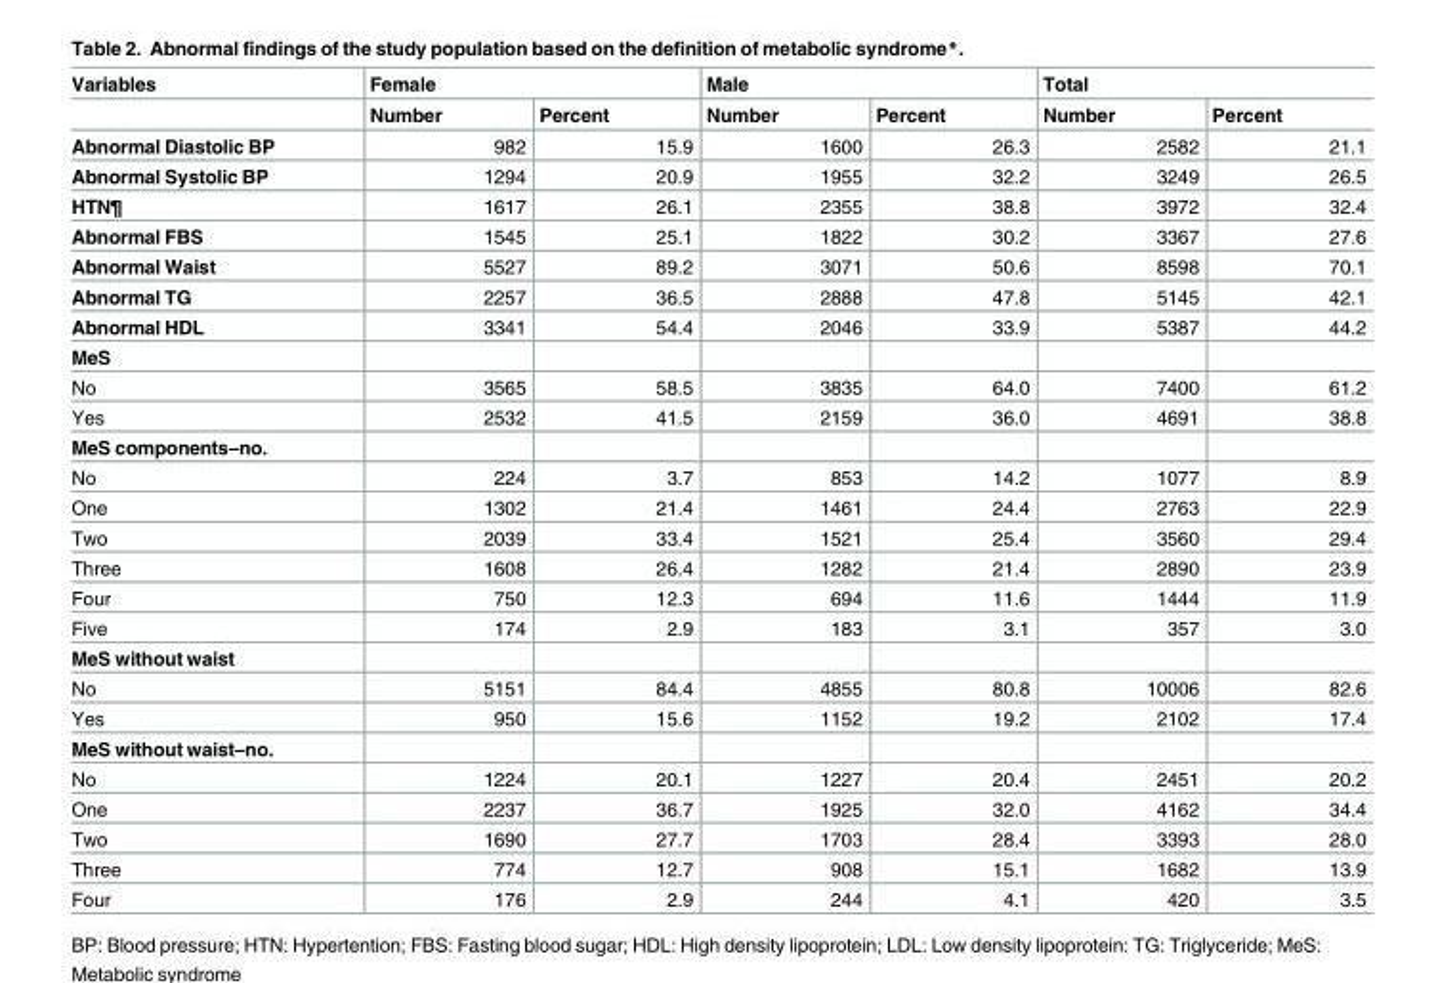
<table><thead><tr><td rowspan="2">Variables</td><td colspan="2">Female</td><td colspan="2">Male</td><td colspan="2">Total</td></tr><tr><td>Number</td><td>Percent</td><td>Number</td><td>Percent</td><td>Number</td><td>Percent</td></tr></thead><tbody><tr><td>Abnormal Diastolic BP</td><td>982</td><td>15.9</td><td>1600</td><td>26.3</td><td>2582</td><td>21.1</td></tr><tr><td>Abnormal Systolic BP</td><td>1294</td><td>20.9</td><td>1955</td><td>32.2</td><td>3249</td><td>26.5</td></tr><tr><td>HTN¶</td><td>1617</td><td>26.1</td><td>2355</td><td>38.8</td><td>3972</td><td>32.4</td></tr><tr><td>Abnormal FBS</td><td>1545</td><td>25.1</td><td>1822</td><td>30.2</td><td>3367</td><td>27.6</td></tr><tr><td>Abnormal Waist</td><td>5527</td><td>89.2</td><td>3071</td><td>50.6</td><td>8598</td><td>70.1</td></tr><tr><td>Abnormal TG</td><td>2257</td><td>36.5</td><td>2888</td><td>47.8</td><td>5145</td><td>42.1</td></tr><tr><td>Abnormal HDL</td><td>3341</td><td>54.4</td><td>2046</td><td>33.9</td><td>5387</td><td>44.2</td></tr><tr><td colspan="7">MeS</td></tr><tr><td>No</td><td>3565</td><td>58.5</td><td>3835</td><td>64.0</td><td>7400</td><td>61.2</td></tr><tr><td>Yes</td><td>2532</td><td>41.5</td><td>2159</td><td>36.0</td><td>4691</td><td>38.8</td></tr><tr><td colspan="7">MeS components–no.</td></tr><tr><td>No</td><td>224</td><td>3.7</td><td>853</td><td>14.2</td><td>1077</td><td>8.9</td></tr><tr><td>One</td><td>1302</td><td>21.4</td><td>1461</td><td>24.4</td><td>2763</td><td>22.9</td></tr><tr><td>Two</td><td>2039</td><td>33.4</td><td>1521</td><td>25.4</td><td>3560</td><td>29.4</td></tr><tr><td>Three</td><td>1608</td><td>26.4</td><td>1282</td><td>21.4</td><td>2890</td><td>23.9</td></tr><tr><td>Four</td><td>750</td><td>12.3</td><td>694</td><td>11.6</td><td>1444</td><td>11.9</td></tr><tr><td>Five</td><td>174</td><td>2.9</td><td>183</td><td>3.1</td><td>357</td><td>3.0</td></tr><tr><td colspan="7">MeS without waist</td></tr><tr><td>No</td><td>5151</td><td>84.4</td><td>4855</td><td>80.8</td><td>10006</td><td>82.6</td></tr><tr><td>Yes</td><td>950</td><td>15.6</td><td>1152</td><td>19.2</td><td>2102</td><td>17.4</td></tr><tr><td colspan="7">MeS without waist–no.</td></tr><tr><td>No</td><td>1224</td><td>20.1</td><td>1227</td><td>20.4</td><td>2451</td><td>20.2</td></tr><tr><td>One</td><td>2237</td><td>36.7</td><td>1925</td><td>32.0</td><td>4162</td><td>34.4</td></tr><tr><td>Two</td><td>1690</td><td>27.7</td><td>1703</td><td>28.4</td><td>3393</td><td>28.0</td></tr><tr><td>Three</td><td>774</td><td>12.7</td><td>908</td><td>15.1</td><td>1682</td><td>13.9</td></tr><tr><td>Four</td><td>176</td><td>2.9</td><td>244</td><td>4.1</td><td>420</td><td>3.5</td></tr></tbody></table>